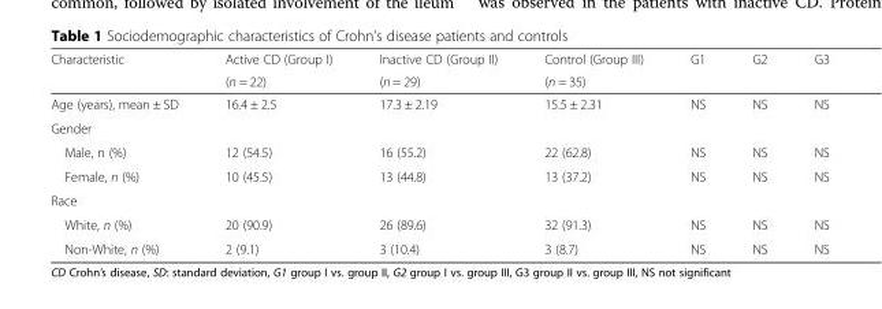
<table><thead><tr><td rowspan="2">Characteristic</td><td rowspan="2">Active CD (Group I) (n = 22)</td><td rowspan="2">Inactive CD (Group II) (n = 29)</td><td rowspan="2">Control (Group III) (n = 35)</td><td rowspan="2">G1</td><td rowspan="2">G2</td><td rowspan="2">G3</td></tr><tr></tr></thead><tbody><tr><td>Age (years), mean ± SD</td><td>16.4 ± 2.5</td><td>17.3 ± 2.19</td><td>15.5 ± 2.31</td><td>NS</td><td>NS</td><td>NS</td></tr><tr><td colspan="7">Gender</td></tr><tr><td>Male, n (%)</td><td>12 (54.5)</td><td>16 (55.2)</td><td>22 (62.8)</td><td>NS</td><td>NS</td><td>NS</td></tr><tr><td>Female, n (%)</td><td>10 (45.5)</td><td>13 (44.8)</td><td>13 (37.2)</td><td>NS</td><td>NS</td><td>NS</td></tr><tr><td colspan="7">Race</td></tr><tr><td>White, n (%)</td><td>20 (90.9)</td><td>26 (89.6)</td><td>32 (91.3)</td><td>NS</td><td>NS</td><td>NS</td></tr><tr><td>Non-White, n (%)</td><td>2 (9.1)</td><td>3 (10.4)</td><td>3 (8.7)</td><td>NS</td><td>NS</td><td>NS</td></tr></tbody></table>